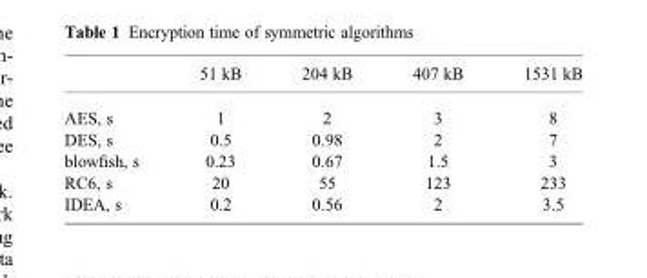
<table><thead><tr><td></td><td>51 kB</td><td>204 kB</td><td>407 kB</td><td>1531 kB</td></tr></thead><tbody><tr><td>AES, s</td><td>1</td><td>2</td><td>3</td><td>8</td></tr><tr><td>DES, s</td><td>0.5</td><td>0.98</td><td>2</td><td>7</td></tr><tr><td>blowfish, s</td><td>0.23</td><td>0.67</td><td>1.5</td><td>3</td></tr><tr><td>RC6, s</td><td>20</td><td>55</td><td>123</td><td>233</td></tr><tr><td>IDEA, s</td><td>0.2</td><td>0.56</td><td>2</td><td>3.5</td></tr></tbody></table>